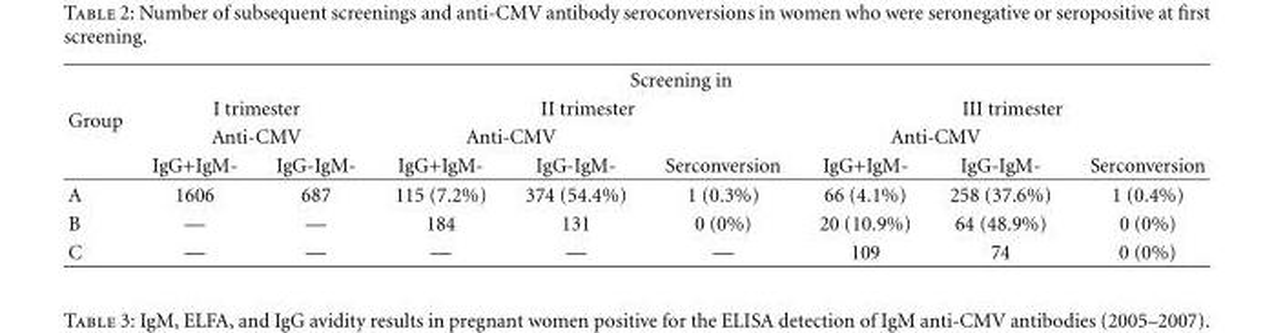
<table><thead><tr><td rowspan="4">Group</td><td colspan="8">Screening in</td></tr><tr><td rowspan="2" colspan="2">I trimester Anti-CMV</td><td colspan="3">II trimester</td><td colspan="3">III trimester</td></tr><tr><td colspan="2">Anti-CMV</td><td rowspan="2">Serconversion</td><td colspan="2">Anti-CMV</td><td rowspan="2">Serconversion</td></tr><tr><td>IgG+IgM-</td><td>IgG-IgM-</td><td>IgG+IgM-</td><td>IgG-IgM-</td><td>IgG+IgM-</td><td>IgG-IgM-</td></tr></thead><tbody><tr><td>A</td><td>1606</td><td>687</td><td>115 (7.2%)</td><td>374 (54.4%)</td><td>1 (0.3%)</td><td>66 (4.1%)</td><td>258 (37.6%)</td><td>1 (0.4%)</td></tr><tr><td>B</td><td>—</td><td>—</td><td>184</td><td>131</td><td>0 (0%)</td><td>20 (10.9%)</td><td>64 (48.9%)</td><td>0 (0%)</td></tr><tr><td>C</td><td>—</td><td>—</td><td>—</td><td>—</td><td>—</td><td>109</td><td>74</td><td>0 (0%)</td></tr></tbody></table>